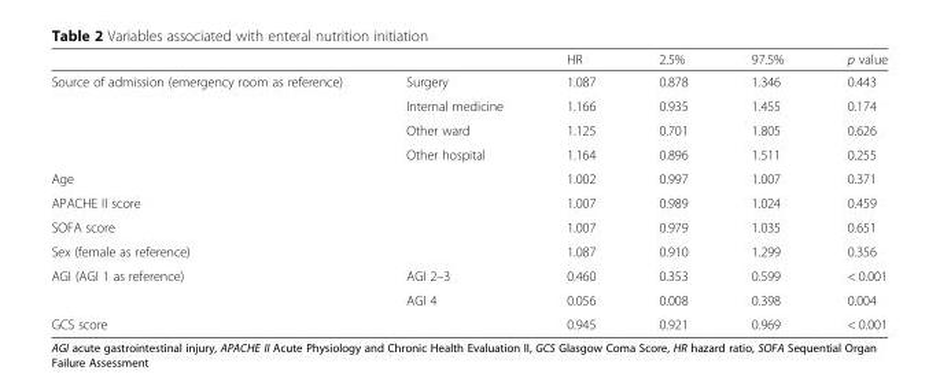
<table><thead><tr><td></td><td></td><td>HR</td><td>2.5%</td><td>97.5%</td><td>p value</td></tr></thead><tbody><tr><td rowspan="4">Source of admission (emergency room as reference)</td><td>Surgery</td><td>1.087</td><td>0.878</td><td>1.346</td><td>0.443</td></tr><tr><td>Internal medicine</td><td>1.166</td><td>0.935</td><td>1.455</td><td>0.174</td></tr><tr><td>Other ward</td><td>1.125</td><td>0.701</td><td>1.805</td><td>0.626</td></tr><tr><td>Other hospital</td><td>1.164</td><td>0.896</td><td>1.511</td><td>0.255</td></tr><tr><td colspan="2">Age</td><td>1.002</td><td>0.997</td><td>1.007</td><td>0.371</td></tr><tr><td colspan="2">APACHE II score</td><td>1.007</td><td>0.989</td><td>1.024</td><td>0.459</td></tr><tr><td colspan="2">SOFA score</td><td>1.007</td><td>0.979</td><td>1.035</td><td>0.651</td></tr><tr><td colspan="2">Sex (female as reference)</td><td>1.087</td><td>0.910</td><td>1.299</td><td>0.356</td></tr><tr><td rowspan="2">AGI (AGI 1 as reference)</td><td>AGI 2–3</td><td>0.460</td><td>0.353</td><td>0.599</td><td>&lt; 0.001</td></tr><tr><td>AGI 4</td><td>0.056</td><td>0.008</td><td>0.398</td><td>0.004</td></tr><tr><td colspan="2">GCS score</td><td>0.945</td><td>0.921</td><td>0.969</td><td>&lt; 0.001</td></tr></tbody></table>